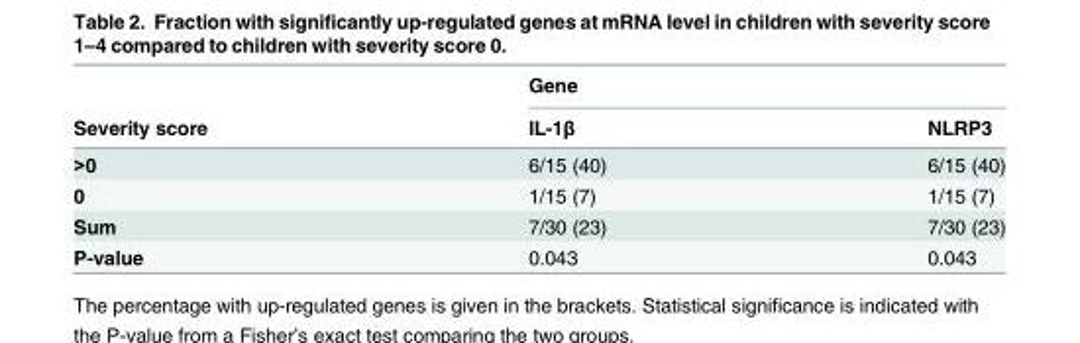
<table><thead><tr><td rowspan="2">Severity score</td><td colspan="2">Gene</td></tr><tr><td>IL-1β</td><td>NLRP3</td></tr></thead><tbody><tr><td>&gt;0</td><td>6/15 (40)</td><td>6/15 (40)</td></tr><tr><td>0</td><td>1/15 (7)</td><td>1/15 (7)</td></tr><tr><td>Sum</td><td>7/30 (23)</td><td>7/30 (23)</td></tr><tr><td>P-value</td><td>0.043</td><td>0.043</td></tr></tbody></table>